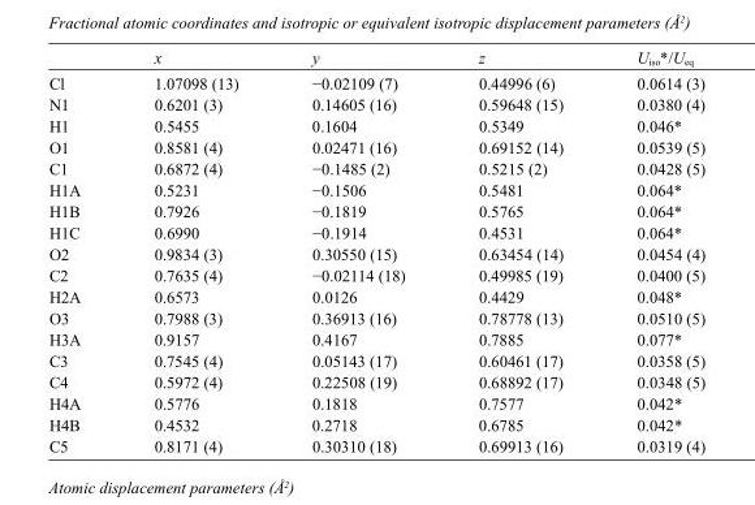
<table><thead><tr><td></td><td>x</td><td>y</td><td>z</td><td>U<sub>iso</sub>*/U<sub>eq</sub></td></tr></thead><tbody><tr><td>Cl</td><td>1.07098 (13)</td><td>−0.02109 (7)</td><td>0.44996 (6)</td><td>0.0614 (3)</td></tr><tr><td>N1</td><td>0.6201 (3)</td><td>0.14605 (16)</td><td>0.59648 (15)</td><td>0.0380 (4)</td></tr><tr><td>H1</td><td>0.5455</td><td>0.1604</td><td>0.5349</td><td>0.046*</td></tr><tr><td>O1</td><td>0.8581 (4)</td><td>0.02471 (16)</td><td>0.69152 (14)</td><td>0.0539 (5)</td></tr><tr><td>C1</td><td>0.6872 (4)</td><td>−0.1485 (2)</td><td>0.5215 (2)</td><td>0.0428 (5)</td></tr><tr><td>H1A</td><td>0.5231</td><td>−0.1506</td><td>0.5481</td><td>0.064*</td></tr><tr><td>H1B</td><td>0.7926</td><td>−0.1819</td><td>0.5765</td><td>0.064*</td></tr><tr><td>H1C</td><td>0.6990</td><td>−0.1914</td><td>0.4531</td><td>0.064*</td></tr><tr><td>O2</td><td>0.9834 (3)</td><td>0.30550 (15)</td><td>0.63454 (14)</td><td>0.0454 (4)</td></tr><tr><td>C2</td><td>0.7635 (4)</td><td>−0.02114 (18)</td><td>0.49985 (19)</td><td>0.0400 (5)</td></tr><tr><td>H2A</td><td>0.6573</td><td>0.0126</td><td>0.4429</td><td>0.048*</td></tr><tr><td>O3</td><td>0.7988 (3)</td><td>0.36913 (16)</td><td>0.78778 (13)</td><td>0.0510 (5)</td></tr><tr><td>H3A</td><td>0.9157</td><td>0.4167</td><td>0.7885</td><td>0.077*</td></tr><tr><td>C3</td><td>0.7545 (4)</td><td>0.05143 (17)</td><td>0.60461 (17)</td><td>0.0358 (5)</td></tr><tr><td>C4</td><td>0.5972 (4)</td><td>0.22508 (19)</td><td>0.68892 (17)</td><td>0.0348 (5)</td></tr><tr><td>H4A</td><td>0.5776</td><td>0.1818</td><td>0.7577</td><td>0.042*</td></tr><tr><td>H4B</td><td>0.4532</td><td>0.2718</td><td>0.6785</td><td>0.042*</td></tr><tr><td>C5</td><td>0.8171 (4)</td><td>0.30310 (18)</td><td>0.69913 (16)</td><td>0.0319 (4)</td></tr></tbody></table>